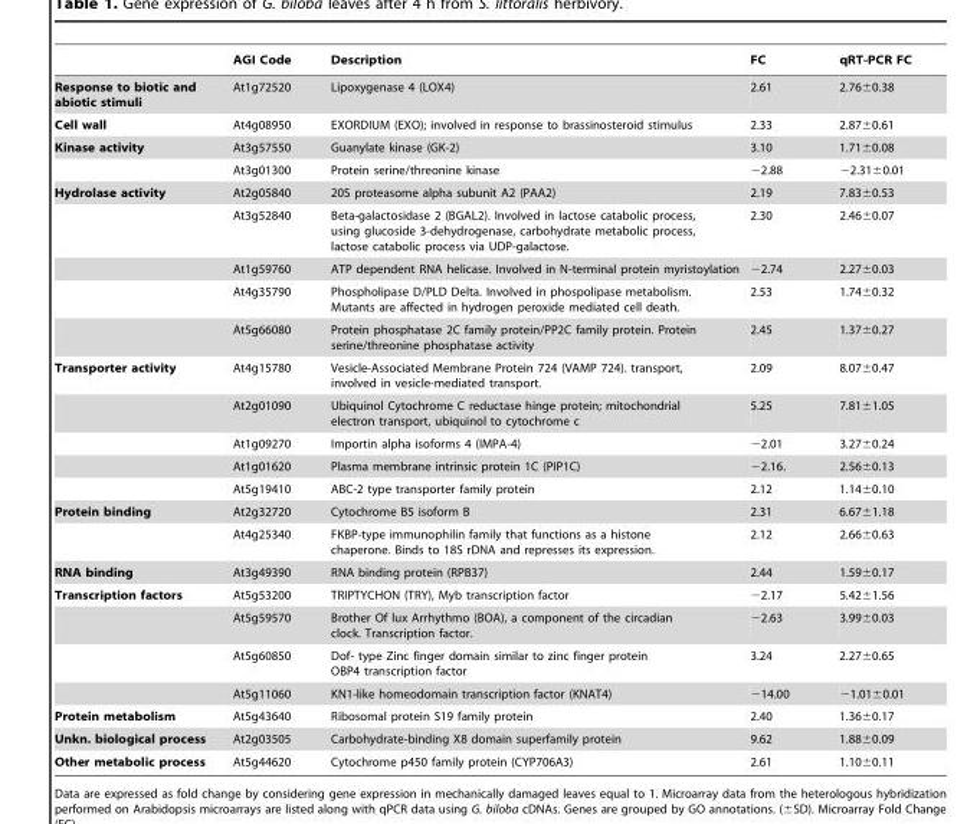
<table><thead><tr><td></td><td>AGI Code</td><td>Description</td><td>FC</td><td>qRT-PCR FC</td></tr></thead><tbody><tr><td>Response to biotic and abiotic stimuli</td><td>At1g72520</td><td>Lipoxygenase 4 (LOX4)</td><td>2.61</td><td>2.76±0.38</td></tr><tr><td>Cell wall</td><td>At4g08950</td><td>EXORDIUM (EXO); involved in response to brassinosteroid stimulus</td><td>2.33</td><td>2.87±0.61</td></tr><tr><td rowspan="2">Kinase activity</td><td>At3g57550</td><td>Guanylate kinase (GK-2)</td><td>3.10</td><td>1.71±0.08</td></tr><tr><td>At3g01300</td><td>Protein serine/threonine kinase</td><td>−2.88</td><td>−2.31±0.01</td></tr><tr><td rowspan="5">Hydrolase activity</td><td>At2g05840</td><td>20S proteasome alpha subunit A2 (PAA2)</td><td>2.19</td><td>7.83±0.53</td></tr><tr><td>At3g52840</td><td>Beta-galactosidase 2 (BGAL2). Involved in lactose catabolic process, using glucoside 3-dehydrogenase, carbohydrate metabolic process, lactose catabolic process via UDP-galactose.</td><td>2.30</td><td>2.46±0.07</td></tr><tr><td>At1g59760</td><td>ATP dependent RNA helicase. Involved in N-terminal protein myristoylation</td><td>−2.74</td><td>2.27±0.03</td></tr><tr><td>At4g35790</td><td>Phospholipase D/PLD Delta. Involved in phospolipase metabolism. Mutants are affected in hydrogen peroxide mediated cell death.</td><td>2.53</td><td>1.74±0.32</td></tr><tr><td>At5g66080</td><td>Protein phosphatase 2C family protein/PP2C family protein. Protein serine/threonine phosphatase activity</td><td>2.45</td><td>1.37±0.27</td></tr><tr><td rowspan="5">Transporter activity</td><td>At4g15780</td><td>Vesicle-Associated Membrane Protein 724 (VAMP 724). transport, involved in vesicle-mediated transport.</td><td>2.09</td><td>8.07±0.47</td></tr><tr><td>At2g01090</td><td>Ubiquinol Cytochrome C reductase hinge protein; mitochondrial electron transport, ubiquinol to cytochrome c</td><td>5.25</td><td>7.81±1.05</td></tr><tr><td>At1g09270</td><td>Importin alpha isoforms 4 (IMPA-4)</td><td>−2.01</td><td>3.27±0.24</td></tr><tr><td>At1g01620</td><td>Plasma membrane intrinsic protein 1C (PIP1C)</td><td>−2.16.</td><td>2.56±0.13</td></tr><tr><td>At5g19410</td><td>ABC-2 type transporter family protein</td><td>2.12</td><td>1.14±0.10</td></tr><tr><td rowspan="2">Protein binding</td><td>At2g32720</td><td>Cytochrome B5 isoform B</td><td>2.31</td><td>6.67±1.18</td></tr><tr><td>At4g25340</td><td>FKBP-type immunophilin family that functions as a histone chaperone. Binds to 18S rDNA and represses its expression.</td><td>2.12</td><td>2.66±0.63</td></tr><tr><td>RNA binding</td><td>At3g49390</td><td>RNA binding protein (RPB37)</td><td>2.44</td><td>1.59±0.17</td></tr><tr><td rowspan="4">Transcription factors</td><td>At5g53200</td><td>TRIPTYCHON (TRY), Myb transcription factor</td><td>−2.17</td><td>5.42±1.56</td></tr><tr><td>At5g59570</td><td>Brother Of lux Arrhythmo (BOA), a component of the circadian clock. Transcription factor.</td><td>−2.63</td><td>3.99±0.03</td></tr><tr><td>At5g60850</td><td>Dof- type Zinc finger domain similar to zinc finger protein OBP4 transcription factor</td><td>3.24</td><td>2.27±0.65</td></tr><tr><td>At5g11060</td><td>KN1-like homeodomain transcription factor (KNAT4)</td><td>−14.00</td><td>−1.01±0.01</td></tr><tr><td>Protein metabolism</td><td>At5g43640</td><td>Ribosomal protein S19 family protein</td><td>2.40</td><td>1.36±0.17</td></tr><tr><td>Unkn. biological process</td><td>At2g03505</td><td>Carbohydrate-binding X8 domain superfamily protein</td><td>9.62</td><td>1.88±0.09</td></tr><tr><td>Other metabolic process</td><td>At5g44620</td><td>Cytochrome p450 family protein (CYP706A3)</td><td>2.61</td><td>1.10±0.11</td></tr></tbody></table>